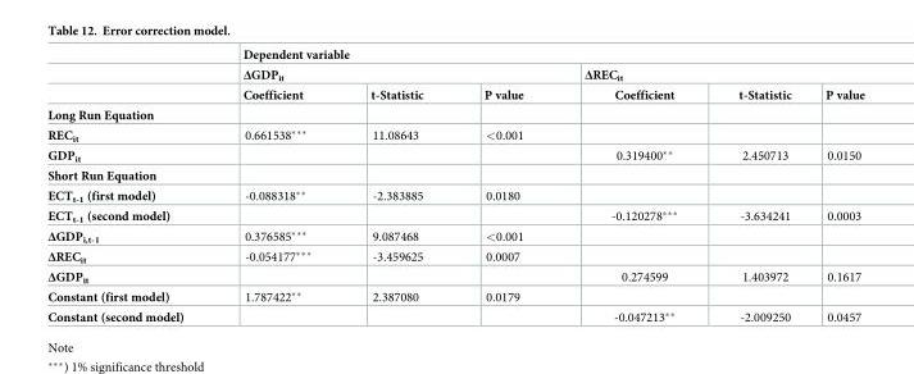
<table><thead><tr><td rowspan="3"></td><td colspan="6">Dependent variable</td></tr><tr><td colspan="3">ΔGDP<sub>it</sub></td><td colspan="3">ΔREC<sub>it</sub></td></tr><tr><td>Coefficient</td><td>t-Statistic</td><td>P value</td><td>Coefficient</td><td>t-Statistic</td><td>P value</td></tr></thead><tbody><tr><td colspan="7">Long Run Equation</td></tr><tr><td>REC<sub>it</sub></td><td>0.661538***</td><td>11.08643</td><td>&lt;0.001</td><td></td><td></td><td></td></tr><tr><td>GDP<sub>it</sub></td><td></td><td></td><td></td><td>0.319400**</td><td>2.450713</td><td>0.0150</td></tr><tr><td colspan="7">Short Run Equation</td></tr><tr><td>ECT<sub>t-1</sub> (first model)</td><td>-0.088318**</td><td>-2.383885</td><td>0.0180</td><td></td><td></td><td></td></tr><tr><td>ECT<sub>t-1</sub> (second model)</td><td></td><td></td><td></td><td>-0.120278***</td><td>-3.634241</td><td>0.0003</td></tr><tr><td>ΔGDP<sub>i,t-1</sub></td><td>0.376585***</td><td>9.087468</td><td>&lt;0.001</td><td></td><td></td><td></td></tr><tr><td>ΔREC<sub>it</sub></td><td>-0.054177***</td><td>-3.459625</td><td>0.0007</td><td></td><td></td><td></td></tr><tr><td>ΔGDP<sub>it</sub></td><td></td><td></td><td></td><td>0.274599</td><td>1.403972</td><td>0.1617</td></tr><tr><td>Constant (first model)</td><td>1.787422**</td><td>2.387080</td><td>0.0179</td><td></td><td></td><td></td></tr><tr><td>Constant (second model)</td><td></td><td></td><td></td><td>-0.047213**</td><td>-2.009250</td><td>0.0457</td></tr></tbody></table>